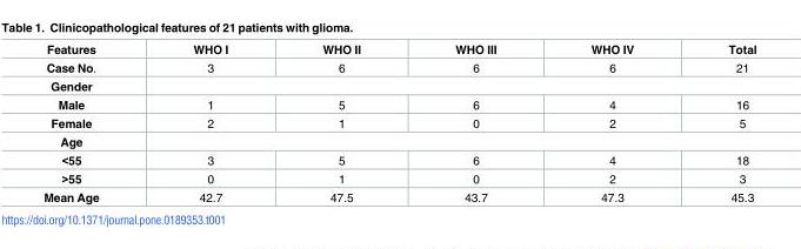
<table><thead><tr><td>Features</td><td>WHO I</td><td>WHO II</td><td>WHO III</td><td>WHO IV</td><td>Total</td></tr></thead><tbody><tr><td>Case No.</td><td>3</td><td>6</td><td>6</td><td>6</td><td>21</td></tr><tr><td colspan="6">Gender</td></tr><tr><td>Male</td><td>1</td><td>5</td><td>6</td><td>4</td><td>16</td></tr><tr><td>Female</td><td>2</td><td>1</td><td>0</td><td>2</td><td>5</td></tr><tr><td colspan="6">Age</td></tr><tr><td>&lt;55</td><td>3</td><td>5</td><td>6</td><td>4</td><td>18</td></tr><tr><td>&gt;55</td><td>0</td><td>1</td><td>0</td><td>2</td><td>3</td></tr><tr><td>Mean Age</td><td>42.7</td><td>47.5</td><td>43.7</td><td>47.3</td><td>45.3</td></tr></tbody></table>